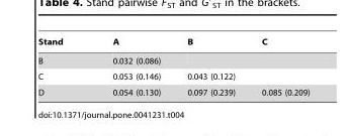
<table><thead><tr><td>Stand</td><td>A</td><td>B</td><td>C</td></tr></thead><tbody><tr><td>B</td><td>0.032 (0.086)</td><td></td><td></td></tr><tr><td>C</td><td>0.053 (0.146)</td><td>0.043 (0.122)</td><td></td></tr><tr><td>D</td><td>0.054 (0.130)</td><td>0.097 (0.239)</td><td>0.085 (0.209)</td></tr></tbody></table>